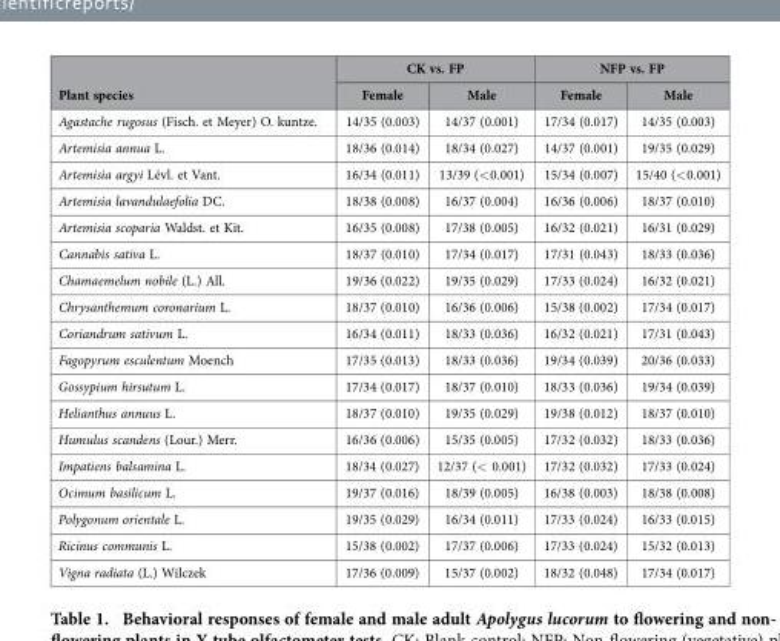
<table><thead><tr><td rowspan="2">Plant species</td><td colspan="2">CK vs. FP</td><td colspan="2">NFP vs. FP</td></tr><tr><td>Female</td><td>Male</td><td>Female</td><td>Male</td></tr></thead><tbody><tr><td>Agastache rugosus (Fisch. et Meyer) O. kuntze.</td><td>14/35 (0.003)</td><td>14/37 (0.001)</td><td>17/34 (0.017)</td><td>14/35 (0.003)</td></tr><tr><td>Artemisia annua L.</td><td>18/36 (0.014)</td><td>18/34 (0.027)</td><td>14/37 (0.001)</td><td>19/35 (0.029)</td></tr><tr><td>Artemisia argyi Lévl. et Vant.</td><td>16/34 (0.011)</td><td>13/39 (&lt; 0.001)</td><td>15/34 (0.007)</td><td>15/40 (&lt; 0.001)</td></tr><tr><td>Artemisia lavandulaefolia DC.</td><td>18/38 (0.008)</td><td>16/37 (0.004)</td><td>16/36 (0.006)</td><td>18/37 (0.010)</td></tr><tr><td>Artemisia scoparia Waldst. et Kit.</td><td>16/35 (0.008)</td><td>17/38 (0.005)</td><td>16/32 (0.021)</td><td>16/31 (0.029)</td></tr><tr><td>Cannabis sativa L.</td><td>18/37 (0.010)</td><td>17/34 (0.017)</td><td>17/31 (0.043)</td><td>18/33 (0.036)</td></tr><tr><td>Chamaemelum nobile (L.) All.</td><td>19/36 (0.022)</td><td>19/35 (0.029)</td><td>17/33 (0.024)</td><td>16/32 (0.021)</td></tr><tr><td>Chrysanthemum coronarium L.</td><td>18/37 (0.010)</td><td>16/36 (0.006)</td><td>15/38 (0.002)</td><td>17/34 (0.017)</td></tr><tr><td>Coriandrum sativum L.</td><td>16/34 (0.011)</td><td>18/33 (0.036)</td><td>16/32 (0.021)</td><td>17/31 (0.043)</td></tr><tr><td>Fagopyrum esculentum Moench</td><td>17/35 (0.013)</td><td>18/33 (0.036)</td><td>19/34 (0.039)</td><td>20/36 (0.033)</td></tr><tr><td>Gossypium hirsutum L.</td><td>17/34 (0.017)</td><td>18/37 (0.010)</td><td>18/33 (0.036)</td><td>19/34 (0.039)</td></tr><tr><td>Helianthus annuus L.</td><td>18/37 (0.010)</td><td>19/35 (0.029)</td><td>19/38 (0.012)</td><td>18/37 (0.010)</td></tr><tr><td>Humulus scandens (Lour.) Merr.</td><td>16/36 (0.006)</td><td>15/35 (0.005)</td><td>17/32 (0.032)</td><td>18/33 (0.036)</td></tr><tr><td>Impatiens balsamina L.</td><td>18/34 (0.027)</td><td>12/37 (&lt; 0.001)</td><td>17/32 (0.032)</td><td>17/33 (0.024)</td></tr><tr><td>Ocimum basilicum L.</td><td>19/37 (0.016)</td><td>18/39 (0.005)</td><td>16/38 (0.003)</td><td>18/38 (0.008)</td></tr><tr><td>Polygonum orientale L.</td><td>19/35 (0.029)</td><td>16/34 (0.011)</td><td>17/33 (0.024)</td><td>16/33 (0.015)</td></tr><tr><td>Ricinus communis L.</td><td>15/38 (0.002)</td><td>17/37 (0.006)</td><td>17/33 (0.024)</td><td>15/32 (0.013)</td></tr><tr><td>Vigna radiata (L.) Wilczek</td><td>17/36 (0.009)</td><td>15/37 (0.002)</td><td>18/32 (0.048)</td><td>17/34 (0.017)</td></tr></tbody></table>